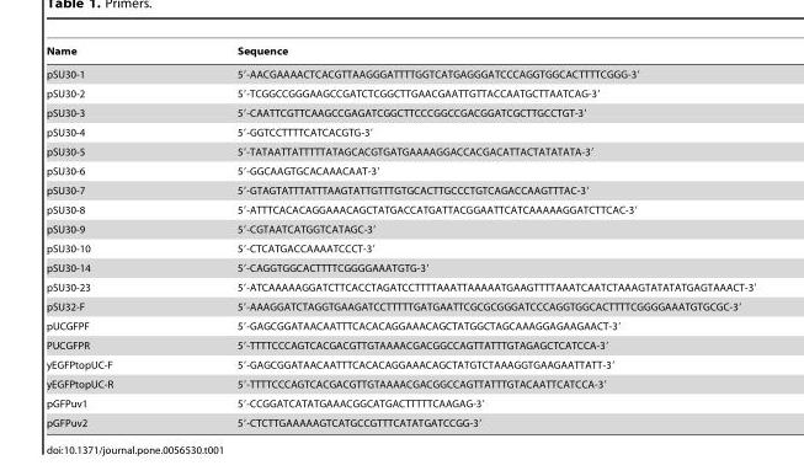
<table><thead><tr><td>Name</td><td>Sequence</td></tr></thead><tbody><tr><td>pSU30-1</td><td>5′-AACGAAAACTCACGTTAAGGGATTTTGGTCATGAGGGATCCCAGGTGGCACTTTTCGGG-3′</td></tr><tr><td>pSU30-2</td><td>5′-TCGGCCGGGAAGCCGATCTCGGCTTGAACGAATTGTTACCAATGCTTAATCAG-3′</td></tr><tr><td>pSU30-3</td><td>5′-CAATTCGTTCAAGCCGAGATCGGCTTCCCGGCCGACGGATCGCTTGCCTGT-3′</td></tr><tr><td>pSU30-4</td><td>5′-GGTCCTTTTCATCACGTG-3′</td></tr><tr><td>pSU30-5</td><td>5′-TATAATTATTTTTATAGCACGTGATGAAAAGGACCACGACATTACTATATATA-3′</td></tr><tr><td>pSU30-6</td><td>5′-GGCAAGTGCACAAACAAT-3′</td></tr><tr><td>pSU30-7</td><td>5′-GTAGTATTTATTTAAGTATTGTTTGTGCACTTGCCCTGTCAGACCAAGTTTAC-3′</td></tr><tr><td>pSU30-8</td><td>5′-ATTTCACACAGGAAACAGCTATGACCATGATTACGGAATTCATCAAAAAGGATCTTCAC-3′</td></tr><tr><td>pSU30-9</td><td>5′-CGTAATCATGGTCATAGC-3′</td></tr><tr><td>pSU30-10</td><td>5′-CTCATGACCAAAATCCCT-3′</td></tr><tr><td>pSU30-14</td><td>5′-CAGGTGGCACTTTTCGGGGAAATGTG-3′</td></tr><tr><td>pSU30-23</td><td>5′-ATCAAAAAGGATCTTCACCTAGATCCTTTTAAATTAAAAATGAAGTTTTAAATCAATCTAAAGTATATATGAGTAAACT-3′</td></tr><tr><td>pSU32-F</td><td>5′-AAAGGATCTAGGTGAAGATCCTTTTTGATGAATTCGCGCGGGATCCCAGGTGGCACTTTTCGGGGAAATGTGCGC-3′</td></tr><tr><td>pUCGFPF</td><td>5′-GAGCGGATAACAATTTCACACAGGAAACAGCTATGGCTAGCAAAGGAGAAGAACT-3′</td></tr><tr><td>PUCGFPR</td><td>5′-TTTTCCCAGTCACGACGTTGTAAAACGACGGCCAGTTATTTGTAGAGCTCATCCA-3′</td></tr><tr><td>yEGFPtopUC-F</td><td>5′-GAGCGGATAACAATTTCACACAGGAAACAGCTATGTCTAAAGGTGAAGAATTATT-3′</td></tr><tr><td>yEGFPtopUC-R</td><td>5′-TTTTCCCAGTCACGACGTTGTAAAACGACGGCCAGTTATTTGTACAATTCATCCA-3′</td></tr><tr><td>pGFPuv1</td><td>5′-CCGGATCATATGAAACGGCATGACTTTTTCAAGAG-3′</td></tr><tr><td>pGFPuv2</td><td>5′-CTCTTGAAAAAGTCATGCCGTTTCATATGATCCGG-3′</td></tr></tbody></table>